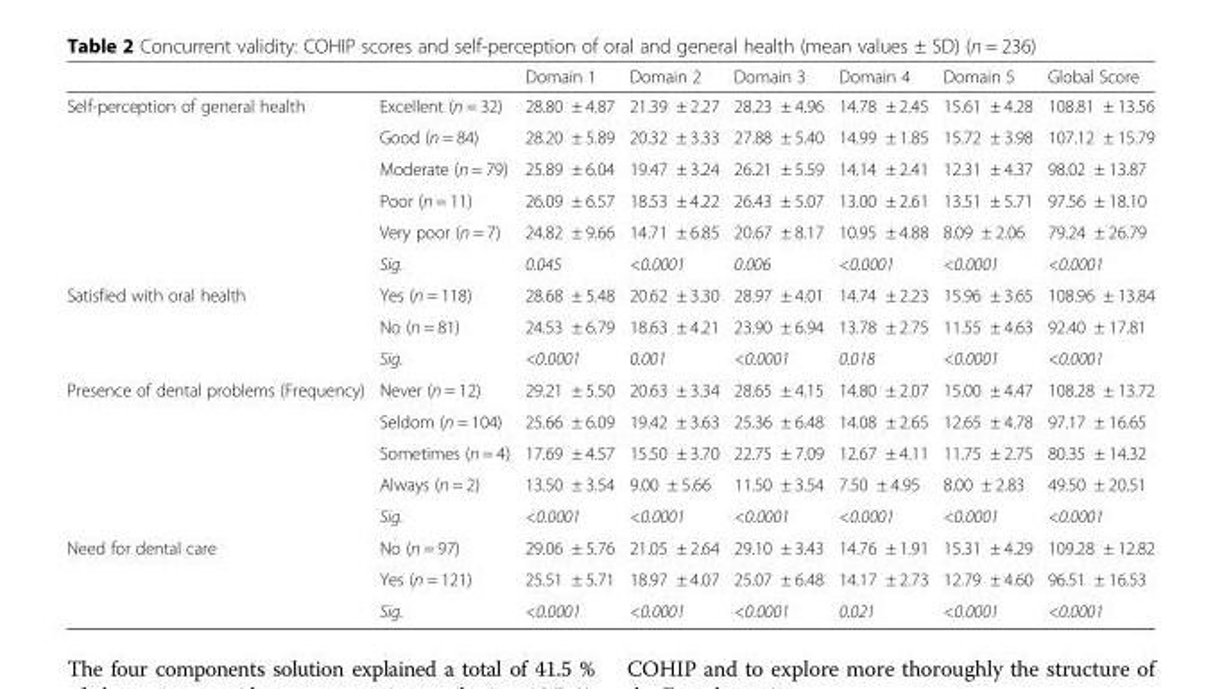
<table><thead><tr><td></td><td></td><td>Domain 1</td><td>Domain 2</td><td>Domain 3</td><td>Domain 4</td><td>Domain 5</td><td>Global Score</td></tr></thead><tbody><tr><td rowspan="6">Self-perception of general health</td><td>Excellent (n = 32)</td><td>28.80 ± 4.87</td><td>21.39 ± 2.27</td><td>28.23 ± 4.96</td><td>14.78 ± 2.45</td><td>15.61 ± 4.28</td><td>108.81 ± 13.56</td></tr><tr><td>Good (n = 84)</td><td>28.20 ± 5.89</td><td>20.32 ± 3.33</td><td>27.88 ± 5.40</td><td>14.99 ± 1.85</td><td>15.72 ± 3.98</td><td>107.12 ± 15.79</td></tr><tr><td>Moderate (n = 79)</td><td>25.89 ± 6.04</td><td>19.47 ± 3.24</td><td>26.21 ± 5.59</td><td>14.14 ± 2.41</td><td>12.31 ± 4.37</td><td>98.02 ± 13.87</td></tr><tr><td>Poor (n = 11)</td><td>26.09 ± 6.57</td><td>18.53 ± 4.22</td><td>26.43 ± 5.07</td><td>13.00 ± 2.61</td><td>13.51 ± 5.71</td><td>97.56 ± 18.10</td></tr><tr><td>Very poor (n = 7)</td><td>24.82 ± 9.66</td><td>14.71 ± 6.85</td><td>20.67 ± 8.17</td><td>10.95 ± 4.88</td><td>8.09 ± 2.06</td><td>79.24 ± 26.79</td></tr><tr><td>Sig.</td><td>0.045</td><td>&lt;0.0001</td><td>0.006</td><td>&lt;0.0001</td><td>&lt;0.0001</td><td>&lt;0.0001</td></tr><tr><td rowspan="3">Satisfied with oral health</td><td>Yes (n = 118)</td><td>28.68 ± 5.48</td><td>20.62 ± 3.30</td><td>28.97 ± 4.01</td><td>14.74 ± 2.23</td><td>15.96 ± 3.65</td><td>108.96 ± 13.84</td></tr><tr><td>No (n = 81)</td><td>24.53 ± 6.79</td><td>18.63 ± 4.21</td><td>23.90 ± 6.94</td><td>13.78 ± 2.75</td><td>11.55 ± 4.63</td><td>92.40 ± 17.81</td></tr><tr><td>Sig.</td><td>&lt;0.0001</td><td>0.001</td><td>&lt;0.0001</td><td>0.018</td><td>&lt;0.0001</td><td>&lt;0.0001</td></tr><tr><td rowspan="5">Presence of dental problems (Frequency)</td><td>Never (n = 12)</td><td>29.21 ± 5.50</td><td>20.63 ± 3.34</td><td>28.65 ± 4.15</td><td>14.80 ± 2.07</td><td>15.00 ± 4.47</td><td>108.28 ± 13.72</td></tr><tr><td>Seldom (n = 104)</td><td>25.66 ± 6.09</td><td>19.42 ± 3.63</td><td>25.36 ± 6.48</td><td>14.08 ± 2.65</td><td>12.65 ± 4.78</td><td>97.17 ± 16.65</td></tr><tr><td>Sometimes (n = 4)</td><td>17.69 ± 4.57</td><td>15.50 ± 3.70</td><td>22.75 ± 7.09</td><td>12.67 ± 4.11</td><td>11.75 ± 2.75</td><td>80.35 ± 14.32</td></tr><tr><td>Always (n = 2)</td><td>13.50 ± 3.54</td><td>9.00 ± 5.66</td><td>11.50 ± 3.54</td><td>7.50 ± 4.95</td><td>8.00 ± 2.83</td><td>49.50 ± 20.51</td></tr><tr><td>Sig.</td><td>&lt;0.0001</td><td>&lt;0.0001</td><td>&lt;0.0001</td><td>&lt;0.0001</td><td>&lt;0.0001</td><td>&lt;0.0001</td></tr><tr><td rowspan="3">Need for dental care</td><td>No (n = 97)</td><td>29.06 ± 5.76</td><td>21.05 ± 2.64</td><td>29.10 ± 3.43</td><td>14.76 ± 1.91</td><td>15.31 ± 4.29</td><td>109.28 ± 12.82</td></tr><tr><td>Yes (n = 121)</td><td>25.51 ± 5.71</td><td>18.97 ± 4.07</td><td>25.07 ± 6.48</td><td>14.17 ± 2.73</td><td>12.79 ± 4.60</td><td>96.51 ± 16.53</td></tr><tr><td>Sig.</td><td>&lt;0.0001</td><td>&lt;0.0001</td><td>&lt;0.0001</td><td>0.021</td><td>&lt;0.0001</td><td>&lt;0.0001</td></tr></tbody></table>